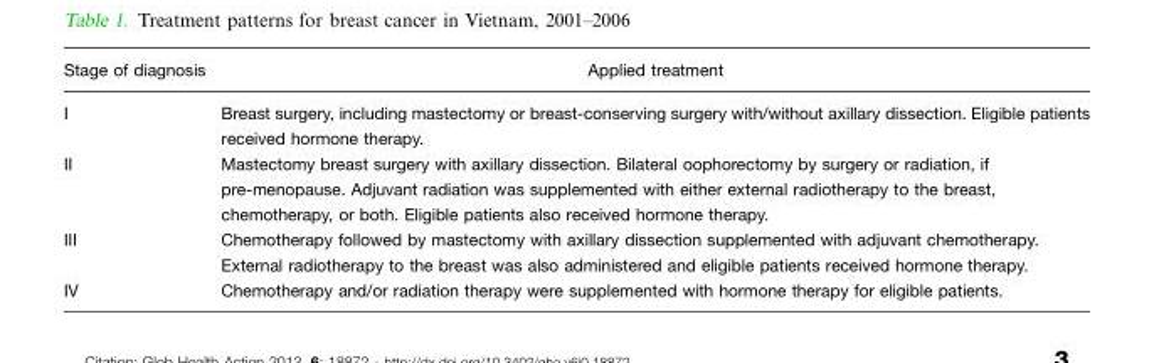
<table><thead><tr><td>Stage of diagnosis</td><td>Applied treatment</td></tr></thead><tbody><tr><td>I</td><td>Breast surgery, including mastectomy or breast-conserving surgery with/without axillary dissection. Eligible patients received hormone therapy.</td></tr><tr><td>II</td><td>Mastectomy breast surgery with axillary dissection. Bilateral oophorectomy by surgery or radiation, if pre-menopause. Adjuvant radiation was supplemented with either external radiotherapy to the breast, chemotherapy, or both. Eligible patients also received hormone therapy.</td></tr><tr><td>III</td><td>Chemotherapy followed by mastectomy with axillary dissection supplemented with adjuvant chemotherapy. External radiotherapy to the breast was also administered and eligible patients received hormone therapy.</td></tr><tr><td>IV</td><td>Chemotherapy and/or radiation therapy were supplemented with hormone therapy for eligible patients.</td></tr></tbody></table>